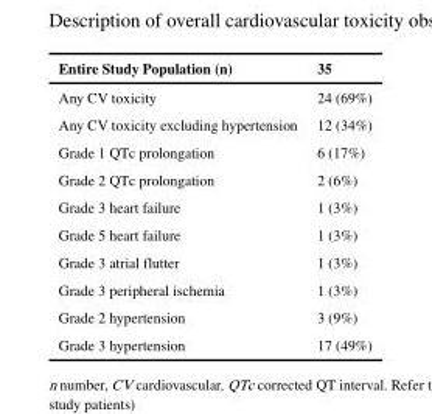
<table><thead><tr><td>Entire Study Population (n)</td><td>35</td></tr></thead><tbody><tr><td>Any CV toxicity</td><td>24 (69%)</td></tr><tr><td>Any CV toxicity excluding hypertension</td><td>12 (34%)</td></tr><tr><td>Grade 1 QTc prolongation</td><td>6 (17%)</td></tr><tr><td>Grade 2 QTc prolongation</td><td>2 (6%)</td></tr><tr><td>Grade 3 heart failure</td><td>1 (3%)</td></tr><tr><td>Grade 5 heart failure</td><td>1 (3%)</td></tr><tr><td>Grade 3 atrial flutter</td><td>1 (3%)</td></tr><tr><td>Grade 3 peripheral ischemia</td><td>1 (3%)</td></tr><tr><td>Grade 2 hypertension</td><td>3 (9%)</td></tr><tr><td>Grade 3 hypertension</td><td>17 (49%)</td></tr></tbody></table>